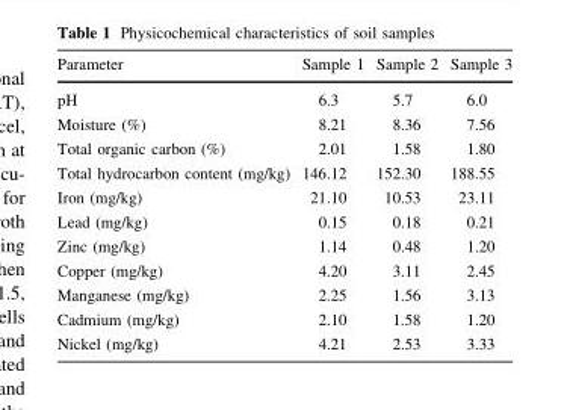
<table><thead><tr><td>Parameter</td><td>Sample 1</td><td>Sample 2</td><td>Sample 3</td></tr></thead><tbody><tr><td>pH</td><td>6.3</td><td>5.7</td><td>6.0</td></tr><tr><td>Moisture (%)</td><td>8.21</td><td>8.36</td><td>7.56</td></tr><tr><td>Total organic carbon (%)</td><td>2.01</td><td>1.58</td><td>1.80</td></tr><tr><td>Total hydrocarbon content (mg/kg)</td><td>146.12</td><td>152.30</td><td>188.55</td></tr><tr><td>Iron (mg/kg)</td><td>21.10</td><td>10.53</td><td>23.11</td></tr><tr><td>Lead (mg/kg)</td><td>0.15</td><td>0.18</td><td>0.21</td></tr><tr><td>Zinc (mg/kg)</td><td>1.14</td><td>0.48</td><td>1.20</td></tr><tr><td>Copper (mg/kg)</td><td>4.20</td><td>3.11</td><td>2.45</td></tr><tr><td>Manganese (mg/kg)</td><td>2.25</td><td>1.56</td><td>3.13</td></tr><tr><td>Cadmium (mg/kg)</td><td>2.10</td><td>1.58</td><td>1.20</td></tr><tr><td>Nickel (mg/kg)</td><td>4.21</td><td>2.53</td><td>3.33</td></tr></tbody></table>